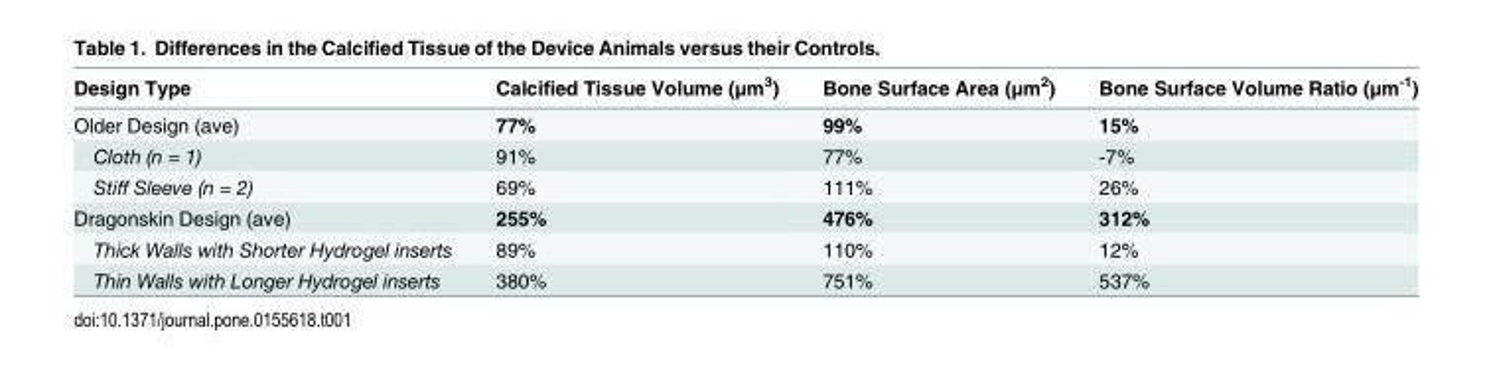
<table><thead><tr><td>Design Type</td><td>Calcified Tissue Volume (μm<sup>3</sup>)</td><td>Bone Surface Area (μm<sup>2</sup>)</td><td>Bone Surface Volume Ratio (μm<sup>-1</sup>)</td></tr></thead><tbody><tr><td>Older Design (ave)</td><td>77%</td><td>99%</td><td>15%</td></tr><tr><td>Cloth (n = 1)</td><td>91%</td><td>77%</td><td>-7%</td></tr><tr><td>Stiff Sleeve (n = 2)</td><td>69%</td><td>111%</td><td>26%</td></tr><tr><td>Dragonskin Design (ave)</td><td>255%</td><td>476%</td><td>312%</td></tr><tr><td>Thick Walls with Shorter Hydrogel inserts</td><td>89%</td><td>110%</td><td>12%</td></tr><tr><td>Thin Walls with Longer Hydrogel inserts</td><td>380%</td><td>751%</td><td>537%</td></tr></tbody></table>